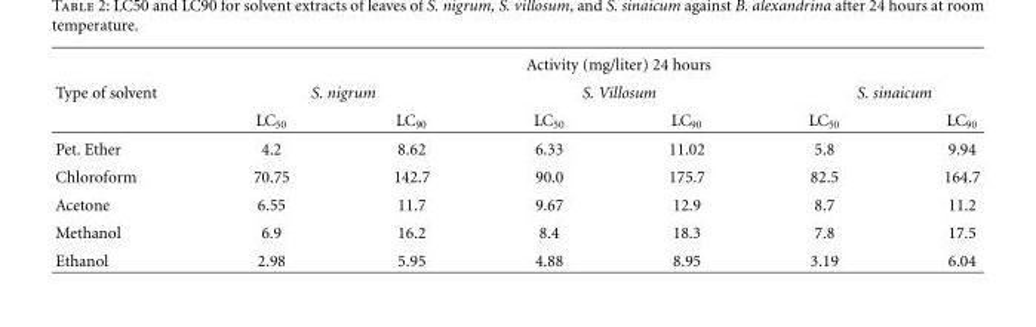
<table><thead><tr><td rowspan="3">Type of solvent</td><td colspan="6">Activity (mg/liter) 24 hours</td></tr><tr><td colspan="2">S. nigrum</td><td colspan="2">S. Villosum</td><td colspan="2">S. sinaicum</td></tr><tr><td>LC<sub>50</sub></td><td>LC<sub>90</sub></td><td>LC<sub>50</sub></td><td>LC<sub>90</sub></td><td>LC<sub>50</sub></td><td>LC<sub>90</sub></td></tr></thead><tbody><tr><td>Pet. Ether</td><td>4.2</td><td>8.62</td><td>6.33</td><td>11.02</td><td>5.8</td><td>9.94</td></tr><tr><td>Chloroform</td><td>70.75</td><td>142.7</td><td>90.0</td><td>175.7</td><td>82.5</td><td>164.7</td></tr><tr><td>Acetone</td><td>6.55</td><td>11.7</td><td>9.67</td><td>12.9</td><td>8.7</td><td>11.2</td></tr><tr><td>Methanol</td><td>6.9</td><td>16.2</td><td>8.4</td><td>18.3</td><td>7.8</td><td>17.5</td></tr><tr><td>Ethanol</td><td>2.98</td><td>5.95</td><td>4.88</td><td>8.95</td><td>3.19</td><td>6.04</td></tr></tbody></table>